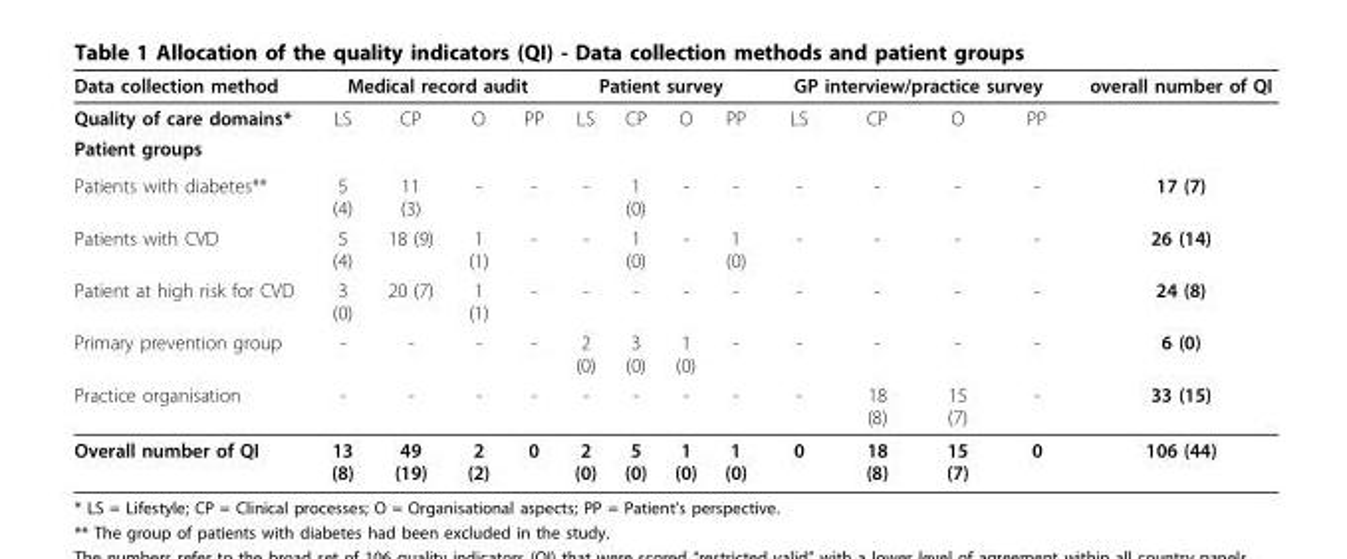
<table><thead><tr><td rowspan="2">Data collection method Quality of care domains*</td><td colspan="4">Medical record audit</td><td colspan="4">Patient survey</td><td colspan="4">GP interview/practice survey</td><td rowspan="2">overall number of QI</td></tr><tr><td>LS</td><td>CP</td><td>O</td><td>PP</td><td>LS</td><td>CP</td><td>O</td><td>PP</td><td>LS</td><td>CP</td><td>O</td><td>PP</td></tr></thead><tbody><tr><td colspan="14">Patient groups</td></tr><tr><td>Patients with diabetes**</td><td>5 (4)</td><td>11 (3)</td><td>-</td><td>-</td><td>-</td><td>1 (0)</td><td>-</td><td>-</td><td>-</td><td>-</td><td>-</td><td>-</td><td>17 (7)</td></tr><tr><td>Patients with CVD</td><td>5 (4)</td><td>18 (9)</td><td>1 (1)</td><td>-</td><td>-</td><td>1 (0)</td><td>-</td><td>1 (0)</td><td>-</td><td>-</td><td>-</td><td>-</td><td>26 (14)</td></tr><tr><td>Patient at high risk for CVD</td><td>3 (0)</td><td>20 (7)</td><td>1 (1)</td><td>-</td><td>-</td><td>-</td><td>-</td><td>-</td><td>-</td><td>-</td><td>-</td><td>-</td><td>24 (8)</td></tr><tr><td>Primary prevention group</td><td>-</td><td>-</td><td>-</td><td>-</td><td>2 (0)</td><td>3 (0)</td><td>1 (0)</td><td>-</td><td>-</td><td>-</td><td>-</td><td>-</td><td>6 (0)</td></tr><tr><td>Practice organisation</td><td>-</td><td>-</td><td>-</td><td>-</td><td>-</td><td>-</td><td>-</td><td>-</td><td>-</td><td>18 (8)</td><td>15 (7)</td><td>-</td><td>33 (15)</td></tr><tr><td>Overall number of QI</td><td>13 (8)</td><td>49 (19)</td><td>2 (2)</td><td>0</td><td>2 (0)</td><td>5 (0)</td><td>1 (0)</td><td>1 (0)</td><td>0</td><td>18 (8)</td><td>15 (7)</td><td>0</td><td>106 (44)</td></tr></tbody></table>